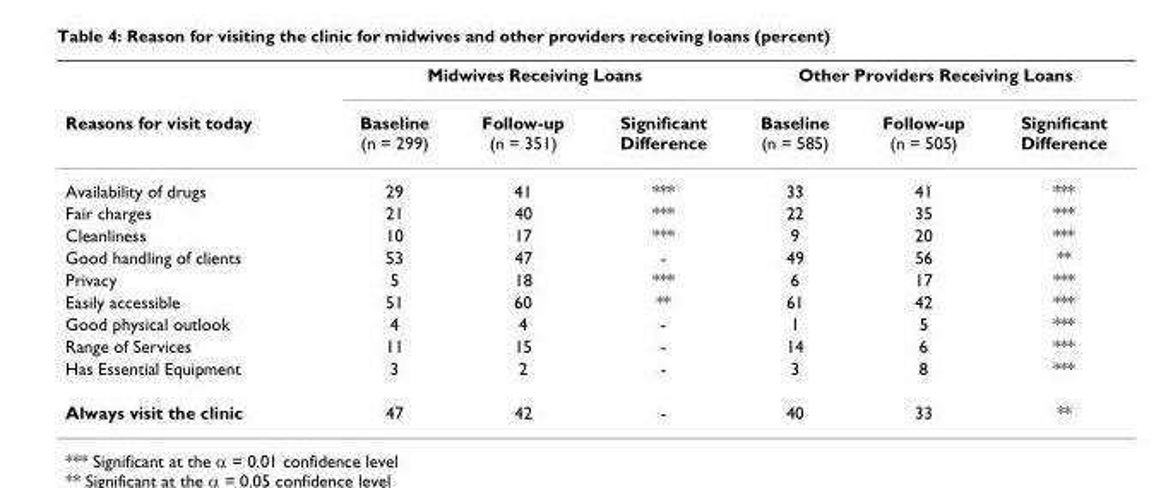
<table><thead><tr><td rowspan="2">Reasons for visit today</td><td colspan="3">Midwives Receiving Loans</td><td colspan="3">Other Providers Receiving Loans</td></tr><tr><td>Baseline (n = 299)</td><td>Follow-up (n = 351)</td><td>Significant Difference</td><td>Baseline (n = 585)</td><td>Follow-up (n = 505)</td><td>Significant Difference</td></tr></thead><tbody><tr><td>Availability of drugs</td><td>29</td><td>41</td><td>***</td><td>33</td><td>41</td><td>***</td></tr><tr><td>Fair charges</td><td>21</td><td>40</td><td>***</td><td>22</td><td>35</td><td>***</td></tr><tr><td>Cleanliness</td><td>10</td><td>17</td><td>***</td><td>9</td><td>20</td><td>***</td></tr><tr><td>Good handling of clients</td><td>53</td><td>47</td><td>-</td><td>49</td><td>56</td><td>**</td></tr><tr><td>Privacy</td><td>5</td><td>18</td><td>***</td><td>6</td><td>17</td><td>***</td></tr><tr><td>Easily accessible</td><td>51</td><td>60</td><td>**</td><td>61</td><td>42</td><td>***</td></tr><tr><td>Good physical outlook</td><td>4</td><td>4</td><td>-</td><td>1</td><td>5</td><td>***</td></tr><tr><td>Range of Services</td><td>11</td><td>15</td><td>-</td><td>14</td><td>6</td><td>***</td></tr><tr><td>Has Essential Equipment</td><td>3</td><td>2</td><td>-</td><td>3</td><td>8</td><td>***</td></tr><tr><td>Always visit the clinic</td><td>47</td><td>42</td><td>-</td><td>40</td><td>33</td><td>**</td></tr></tbody></table>